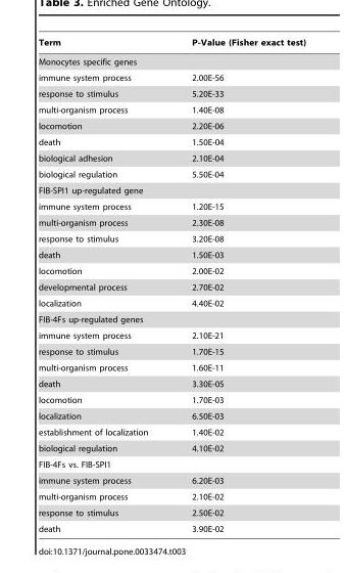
<table><thead><tr><td>Term</td><td>P-Value (Fisher exact test)</td></tr></thead><tbody><tr><td colspan="2">Monocytes specific genes</td></tr><tr><td>immune system process</td><td>2.00E-56</td></tr><tr><td>response to stimulus</td><td>5.20E-33</td></tr><tr><td>multi-organism process</td><td>1.40E-08</td></tr><tr><td>locomotion</td><td>2.20E-06</td></tr><tr><td>death</td><td>1.50E-04</td></tr><tr><td>biological adhesion</td><td>2.10E-04</td></tr><tr><td>biological regulation</td><td>5.50E-04</td></tr><tr><td colspan="2">FIB-SPI1 up-regulated gene</td></tr><tr><td>immune system process</td><td>1.20E-15</td></tr><tr><td>multi-organism process</td><td>2.30E-08</td></tr><tr><td>response to stimulus</td><td>3.20E-08</td></tr><tr><td>death</td><td>1.50E-03</td></tr><tr><td>locomotion</td><td>2.00E-02</td></tr><tr><td>developmental process</td><td>2.70E-02</td></tr><tr><td>localization</td><td>4.40E-02</td></tr><tr><td colspan="2">FIB-4Fs up-regulated genes</td></tr><tr><td>immune system process</td><td>2.10E-21</td></tr><tr><td>response to stimulus</td><td>1.70E-15</td></tr><tr><td>multi-organism process</td><td>1.60E-11</td></tr><tr><td>death</td><td>3.30E-05</td></tr><tr><td>locomotion</td><td>1.70E-03</td></tr><tr><td>localization</td><td>6.50E-03</td></tr><tr><td>establishment of localization</td><td>1.40E-02</td></tr><tr><td>biological regulation</td><td>4.10E-02</td></tr><tr><td colspan="2">FIB-4Fs vs. FIB-SPI1</td></tr><tr><td>immune system process</td><td>6.20E-03</td></tr><tr><td>multi-organism process</td><td>2.10E-02</td></tr><tr><td>response to stimulus</td><td>2.50E-02</td></tr><tr><td>death</td><td>3.90E-02</td></tr></tbody></table>